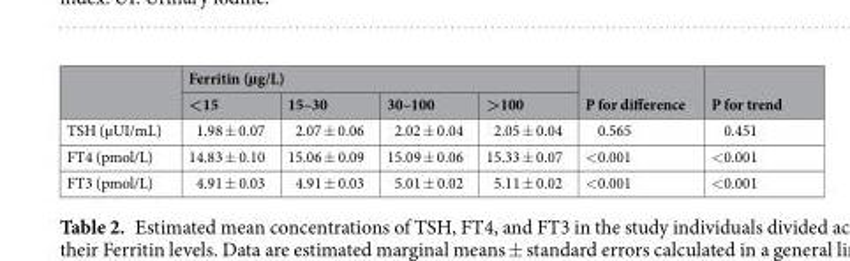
<table><thead><tr><td rowspan="2"></td><td colspan="4">Ferritin (µg/L)</td><td rowspan="2">P for difference</td><td rowspan="2">P for trend</td></tr><tr><td>&lt;15</td><td>15–30</td><td>30–100</td><td>&gt;100</td></tr></thead><tbody><tr><td>TSH (µUI/mL)</td><td>1.98 ± 0.07</td><td>2.07 ± 0.06</td><td>2.02 ± 0.04</td><td>2.05 ± 0.04</td><td>0.565</td><td>0.451</td></tr><tr><td>FT4 (pmol/L)</td><td>14.83 ± 0.10</td><td>15.06 ± 0.09</td><td>15.09 ± 0.06</td><td>15.33 ± 0.07</td><td>&lt;0.001</td><td>&lt;0.001</td></tr><tr><td>FT3 (pmol/L)</td><td>4.91 ± 0.03</td><td>4.91 ± 0.03</td><td>5.01 ± 0.02</td><td>5.11 ± 0.02</td><td>&lt;0.001</td><td>&lt;0.001</td></tr></tbody></table>